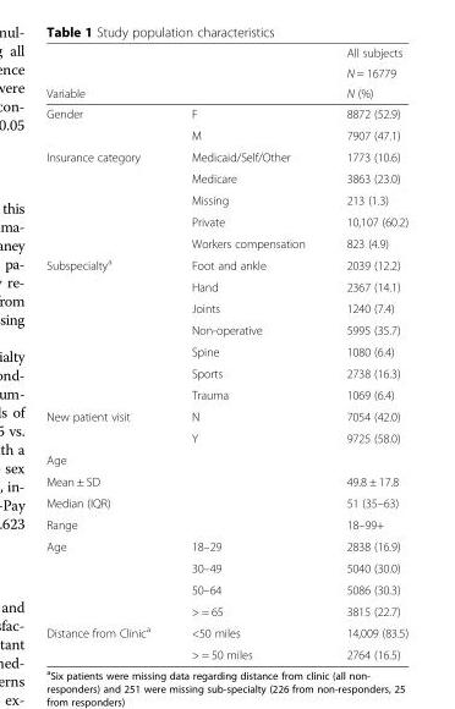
<table><thead><tr><td rowspan="3">Variable</td><td rowspan="3"></td><td rowspan="3">All subjects N = 16779 N (%)</td></tr><tr></tr><tr></tr></thead><tbody><tr><td rowspan="2">Gender</td><td>F</td><td>8872 (52.9)</td></tr><tr><td>M</td><td>7907 (47.1)</td></tr><tr><td rowspan="5">Insurance category</td><td>Medicaid/Self/Other</td><td>1773 (10.6)</td></tr><tr><td>Medicare</td><td>3863 (23.0)</td></tr><tr><td>Missing</td><td>213 (1.3)</td></tr><tr><td>Private</td><td>10,107 (60.2)</td></tr><tr><td>Workers compensation</td><td>823 (4.9)</td></tr><tr><td rowspan="7">Subspecialty<sup>a</sup></td><td>Foot and ankle</td><td>2039 (12.2)</td></tr><tr><td>Hand</td><td>2367 (14.1)</td></tr><tr><td>Joints</td><td>1240 (7.4)</td></tr><tr><td>Non-operative</td><td>5995 (35.7)</td></tr><tr><td>Spine</td><td>1080 (6.4)</td></tr><tr><td>Sports</td><td>2738 (16.3)</td></tr><tr><td>Trauma</td><td>1069 (6.4)</td></tr><tr><td rowspan="2">New patient visit</td><td>N</td><td>7054 (42.0)</td></tr><tr><td>Y</td><td>9725 (58.0)</td></tr><tr><td colspan="3">Age</td></tr><tr><td>Mean ± SD</td><td></td><td>49.8 ± 17.8</td></tr><tr><td>Median (IQR)</td><td></td><td>51 (35–63)</td></tr><tr><td>Range</td><td></td><td>18–99+</td></tr><tr><td rowspan="4">Age</td><td>18–29</td><td>2838 (16.9)</td></tr><tr><td>30–49</td><td>5040 (30.0)</td></tr><tr><td>50–64</td><td>5086 (30.3)</td></tr><tr><td>&gt; = 65</td><td>3815 (22.7)</td></tr><tr><td rowspan="2">Distance from Clinic<sup>a</sup></td><td>&lt;50 miles</td><td>14,009 (83.5)</td></tr><tr><td>&gt; = 50 miles</td><td>2764 (16.5)</td></tr></tbody></table>